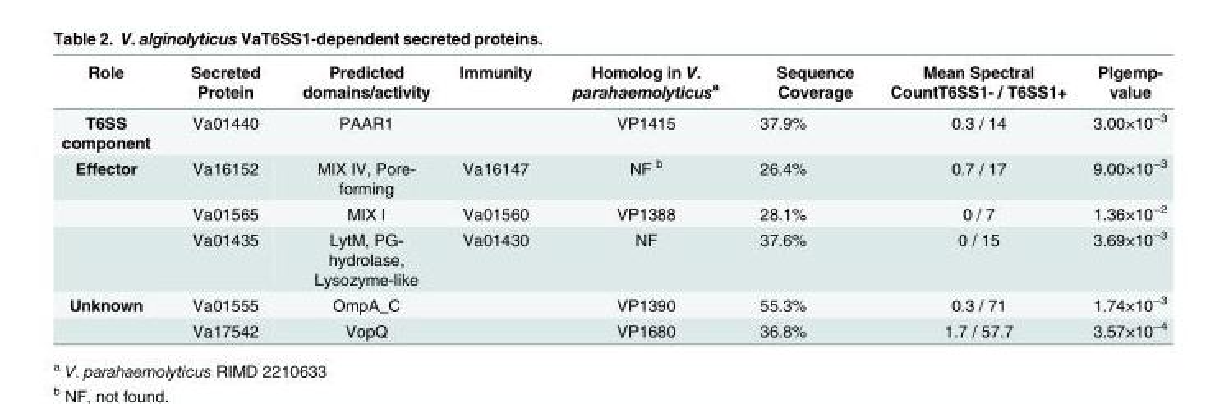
<table><thead><tr><td>Role</td><td>Secreted Protein</td><td>Predicted domains/activity</td><td>Immunity</td><td>Homolog in V. parahaemolyticus<sup>a</sup></td><td>Sequence Coverage</td><td>Mean Spectral CountT6SS1- / T6SS1+</td><td>Plgemp- value</td></tr></thead><tbody><tr><td>T6SS component</td><td>Va01440</td><td>PAAR1</td><td></td><td>VP1415</td><td>37.9%</td><td>0.3 / 14</td><td>3.00×10<sup>−3</sup></td></tr><tr><td rowspan="3">Effector</td><td>Va16152</td><td>MIX IV, Pore- forming</td><td>Va16147</td><td>NF <sup>b</sup></td><td>26.4%</td><td>0.7 / 17</td><td>9.00×10<sup>−3</sup></td></tr><tr><td>Va01565</td><td>MIX I</td><td>Va01560</td><td>VP1388</td><td>28.1%</td><td>0 / 7</td><td>1.36×10<sup>−2</sup></td></tr><tr><td>Va01435</td><td>LytM, PG- hydrolase, Lysozyme-like</td><td>Va01430</td><td>NF</td><td>37.6%</td><td>0 / 15</td><td>3.69×10<sup>−3</sup></td></tr><tr><td rowspan="2">Unknown</td><td>Va01555</td><td>OmpA_C</td><td></td><td>VP1390</td><td>55.3%</td><td>0.3 / 71</td><td>1.74×10<sup>−3</sup></td></tr><tr><td>Va17542</td><td>VopQ</td><td></td><td>VP1680</td><td>36.8%</td><td>1.7 / 57.7</td><td>3.57×10<sup>−4</sup></td></tr></tbody></table>